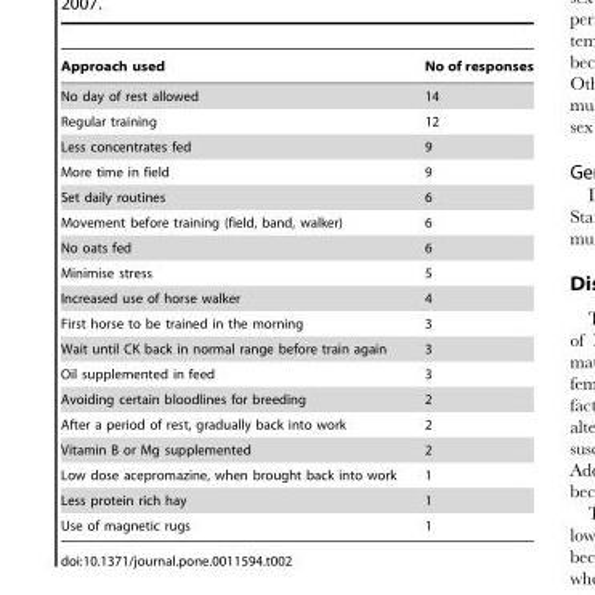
<table><thead><tr><td>Approach used</td><td>No of responses</td></tr></thead><tbody><tr><td>No day of rest allowed</td><td>14</td></tr><tr><td>Regular training</td><td>12</td></tr><tr><td>Less concentrates fed</td><td>9</td></tr><tr><td>More time in field</td><td>9</td></tr><tr><td>Set daily routines</td><td>6</td></tr><tr><td>Movement before training (field, band, walker)</td><td>6</td></tr><tr><td>No oats fed</td><td>6</td></tr><tr><td>Minimise stress</td><td>5</td></tr><tr><td>Increased use of horse walker</td><td>4</td></tr><tr><td>First horse to be trained in the morning</td><td>3</td></tr><tr><td>Wait until CK back in normal range before train again</td><td>3</td></tr><tr><td>Oil supplemented in feed</td><td>3</td></tr><tr><td>Avoiding certain bloodlines for breeding</td><td>2</td></tr><tr><td>After a period of rest, gradually back into work</td><td>2</td></tr><tr><td>Vitamin B or Mg supplemented</td><td>2</td></tr><tr><td>Low dose acepromazine, when brought back into work</td><td>1</td></tr><tr><td>Less protein rich hay</td><td>1</td></tr><tr><td>Use of magnetic rugs</td><td>1</td></tr></tbody></table>